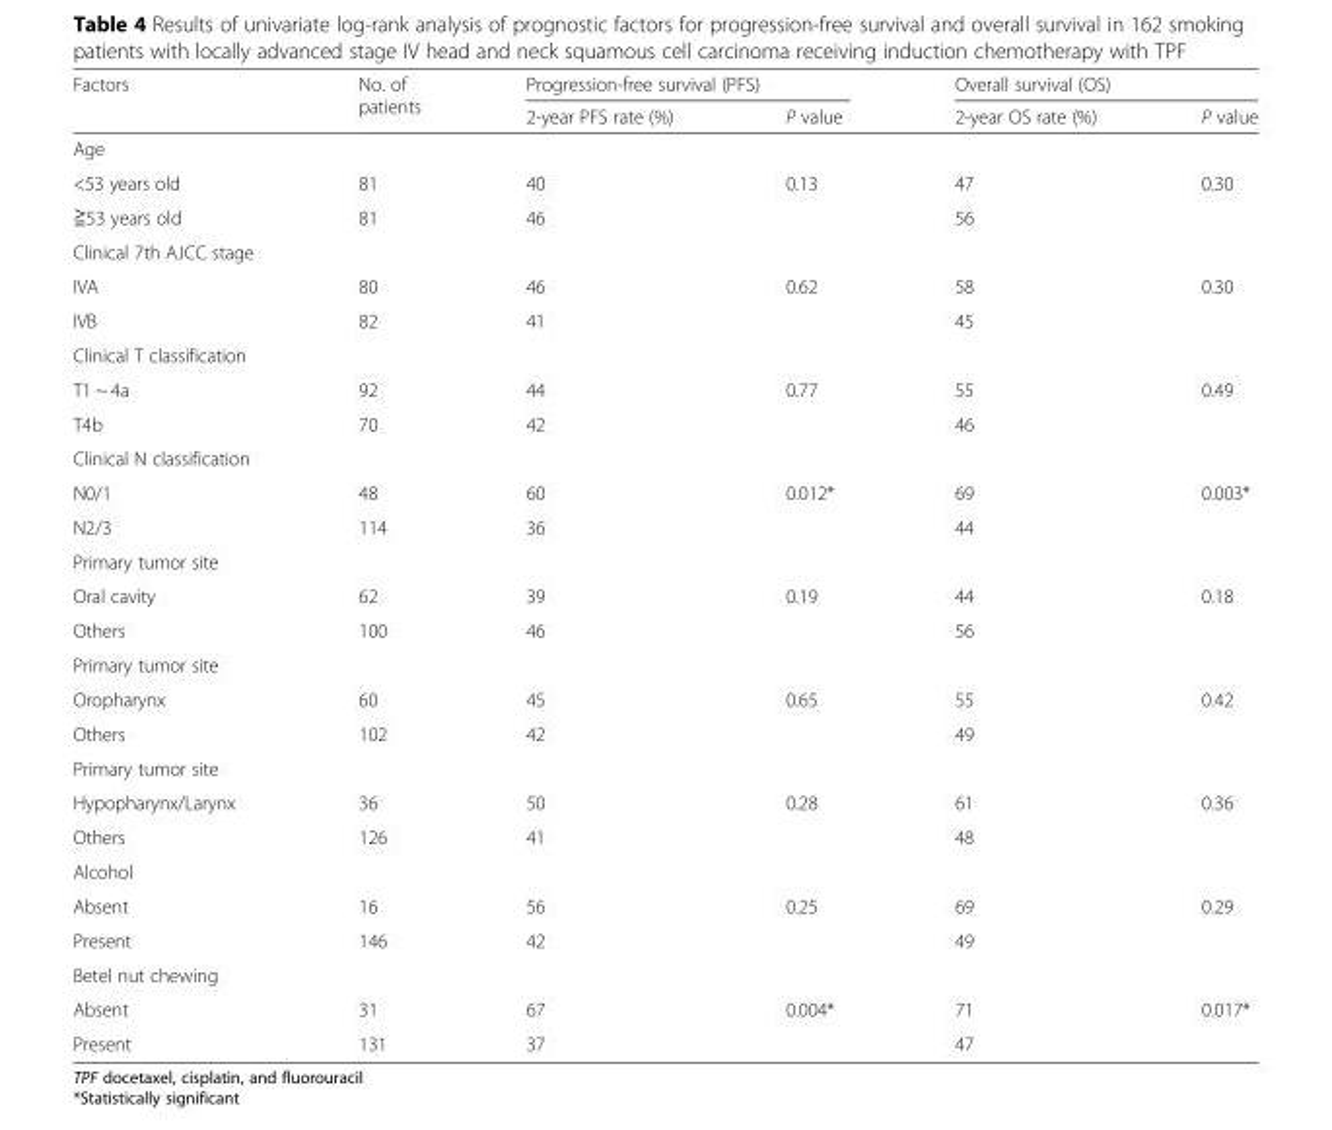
<table><thead><tr><td rowspan="2">Factors</td><td rowspan="2">No. of patients</td><td colspan="2">Progression-free survival (PFS)</td><td colspan="2">Overall survival (OS)</td></tr><tr><td>2-year PFS rate (%)</td><td>P value</td><td>2-year OS rate (%)</td><td>P value</td></tr></thead><tbody><tr><td colspan="6">Age</td></tr><tr><td>&lt;53 years old</td><td>81</td><td>40</td><td>0.13</td><td>47</td><td>0.30</td></tr><tr><td>≧53 years old</td><td>81</td><td>46</td><td></td><td>56</td><td></td></tr><tr><td colspan="6">Clinical 7th AJCC stage</td></tr><tr><td>IVA</td><td>80</td><td>46</td><td>0.62</td><td>58</td><td>0.30</td></tr><tr><td>IVB</td><td>82</td><td>41</td><td></td><td>45</td><td></td></tr><tr><td colspan="6">Clinical T classification</td></tr><tr><td>T1 ~ 4a</td><td>92</td><td>44</td><td>0.77</td><td>55</td><td>0.49</td></tr><tr><td>T4b</td><td>70</td><td>42</td><td></td><td>46</td><td></td></tr><tr><td colspan="6">Clinical N classification</td></tr><tr><td>N0/1</td><td>48</td><td>60</td><td>0.012*</td><td>69</td><td>0.003*</td></tr><tr><td>N2/3</td><td>114</td><td>36</td><td></td><td>44</td><td></td></tr><tr><td colspan="6">Primary tumor site</td></tr><tr><td>Oral cavity</td><td>62</td><td>39</td><td>0.19</td><td>44</td><td>0.18</td></tr><tr><td>Others</td><td>100</td><td>46</td><td></td><td>56</td><td></td></tr><tr><td colspan="6">Primary tumor site</td></tr><tr><td>Oropharynx</td><td>60</td><td>45</td><td>0.65</td><td>55</td><td>0.42</td></tr><tr><td>Others</td><td>102</td><td>42</td><td></td><td>49</td><td></td></tr><tr><td colspan="6">Primary tumor site</td></tr><tr><td>Hypopharynx/Larynx</td><td>36</td><td>50</td><td>0.28</td><td>61</td><td>0.36</td></tr><tr><td>Others</td><td>126</td><td>41</td><td></td><td>48</td><td></td></tr><tr><td colspan="6">Alcohol</td></tr><tr><td>Absent</td><td>16</td><td>56</td><td>0.25</td><td>69</td><td>0.29</td></tr><tr><td>Present</td><td>146</td><td>42</td><td></td><td>49</td><td></td></tr><tr><td colspan="6">Betel nut chewing</td></tr><tr><td>Absent</td><td>31</td><td>67</td><td>0.004*</td><td>71</td><td>0.017*</td></tr><tr><td>Present</td><td>131</td><td>37</td><td></td><td>47</td><td></td></tr></tbody></table>